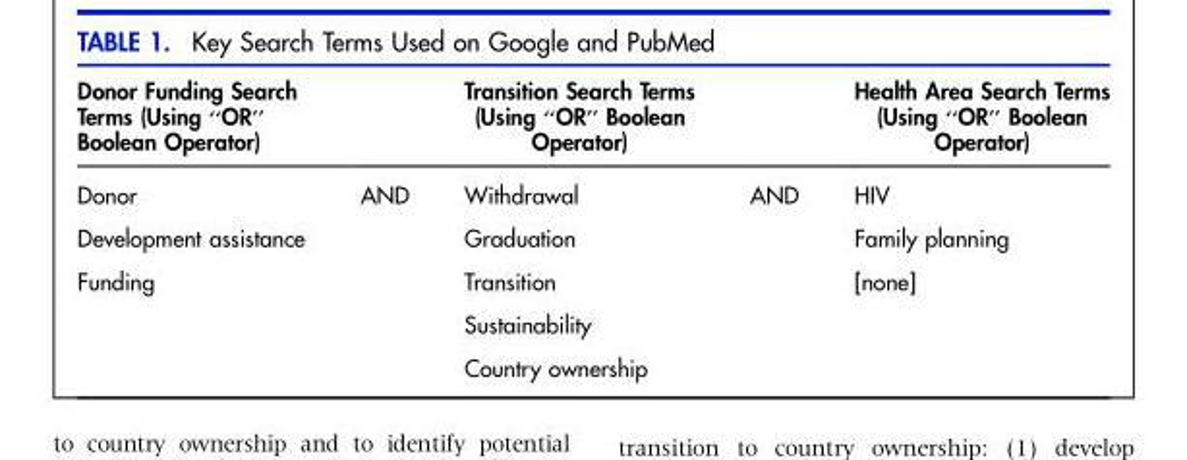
<table><thead><tr><td>Donor Funding Search Terms (Using ‘‘OR’’ Boolean Operator)</td><td></td><td>Transition Search Terms (Using ‘‘OR’’ Boolean Operator)</td><td></td><td>Health Area Search Terms (Using ‘‘OR’’ Boolean Operator)</td></tr></thead><tbody><tr><td>Donor</td><td rowspan="5">AND</td><td>Withdrawal</td><td rowspan="5">AND</td><td>HIV</td></tr><tr><td>Development assistance</td><td>Graduation</td><td>Family planning</td></tr><tr><td rowspan="3">Funding</td><td>Transition</td><td>[none]</td></tr><tr><td>Sustainability</td><td></td></tr><tr><td>Country ownership</td><td></td></tr></tbody></table>